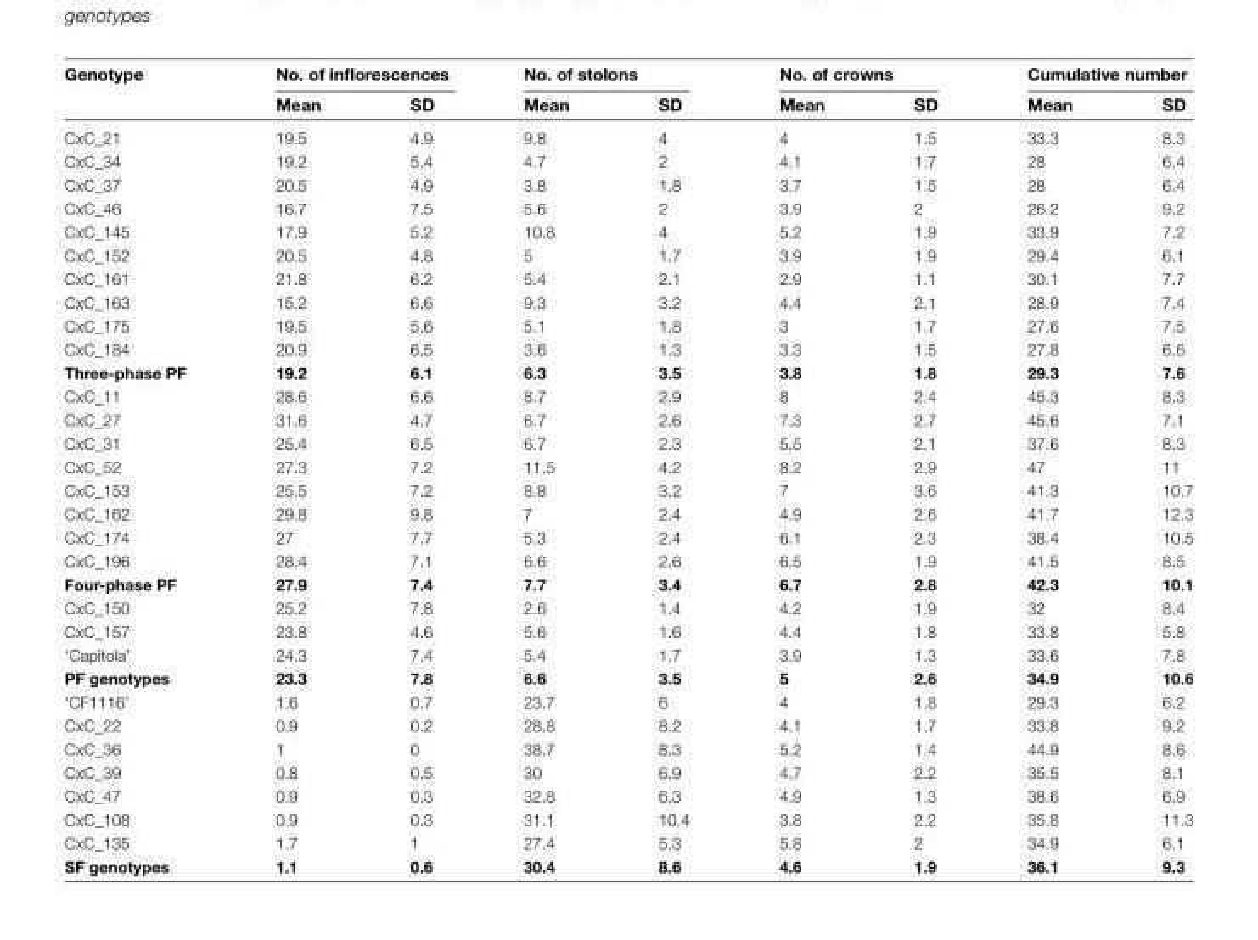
<table><thead><tr><td rowspan="2">Genotype</td><td colspan="2">No. of inflorescences</td><td colspan="2">No. of stolons</td><td colspan="2">No. of crowns</td><td colspan="2">Cumulative number</td></tr><tr><td>Mean</td><td>SD</td><td>Mean</td><td>SD</td><td>Mean</td><td>SD</td><td>Mean</td><td>SD</td></tr></thead><tbody><tr><td>CxC_21</td><td>19.5</td><td>4.9</td><td>9.8</td><td>4</td><td>4</td><td>1.5</td><td>33.3</td><td>8.3</td></tr><tr><td>CxC_34</td><td>19.2</td><td>5.4</td><td>4.7</td><td>2</td><td>4.1</td><td>1.7</td><td>28</td><td>6.4</td></tr><tr><td>CxC_37</td><td>20.5</td><td>4.9</td><td>3.8</td><td>1.8</td><td>3.7</td><td>1.5</td><td>28</td><td>6.4</td></tr><tr><td>CxC_46</td><td>16.7</td><td>7.5</td><td>5.6</td><td>2</td><td>3.9</td><td>2</td><td>26.2</td><td>9.2</td></tr><tr><td>CxC_145</td><td>17.9</td><td>5.2</td><td>10.8</td><td>4</td><td>5.2</td><td>1.9</td><td>33.9</td><td>7.2</td></tr><tr><td>CxC_152</td><td>20.5</td><td>4.8</td><td>5</td><td>1.7</td><td>3.9</td><td>1.9</td><td>29.4</td><td>6.1</td></tr><tr><td>CxC_161</td><td>21.8</td><td>6.2</td><td>5.4</td><td>2.1</td><td>2.9</td><td>1.1</td><td>30.1</td><td>7.7</td></tr><tr><td>CxC_163</td><td>15.2</td><td>6.6</td><td>9.3</td><td>3.2</td><td>4.4</td><td>2.1</td><td>28.9</td><td>7.4</td></tr><tr><td>CxC_175</td><td>19.5</td><td>5.6</td><td>5.1</td><td>1.8</td><td>3</td><td>1.7</td><td>27.6</td><td>7.5</td></tr><tr><td>CxC_184</td><td>20.9</td><td>6.5</td><td>3.6</td><td>1.3</td><td>3.3</td><td>1.5</td><td>27.8</td><td>6.6</td></tr><tr><td>Three-phase PF</td><td>19.2</td><td>6.1</td><td>6.3</td><td>3.5</td><td>3.8</td><td>1.8</td><td>29.3</td><td>7.6</td></tr><tr><td>CxC_11</td><td>28.6</td><td>6.6</td><td>8.7</td><td>2.9</td><td>8</td><td>2.4</td><td>45.3</td><td>8.3</td></tr><tr><td>CxC_27</td><td>31.6</td><td>4.7</td><td>6.7</td><td>2.6</td><td>7.3</td><td>2.7</td><td>45.6</td><td>7.1</td></tr><tr><td>CxC_31</td><td>25.4</td><td>6.5</td><td>6.7</td><td>2.3</td><td>5.5</td><td>2.1</td><td>37.6</td><td>8.3</td></tr><tr><td>CxC_52</td><td>27.3</td><td>7.2</td><td>11.5</td><td>4.2</td><td>8.2</td><td>2.9</td><td>47</td><td>11</td></tr><tr><td>CxC_153</td><td>25.5</td><td>7.2</td><td>8.8</td><td>3.2</td><td>7</td><td>3.6</td><td>41.3</td><td>10.7</td></tr><tr><td>CxC_162</td><td>29.8</td><td>9.8</td><td>7</td><td>2.4</td><td>4.9</td><td>2.6</td><td>41.7</td><td>12.3</td></tr><tr><td>CxC_174</td><td>27</td><td>7.7</td><td>5.3</td><td>2.4</td><td>6.1</td><td>2.3</td><td>38.4</td><td>10.5</td></tr><tr><td>CxC_196</td><td>28.4</td><td>7.1</td><td>6.6</td><td>2.6</td><td>6.5</td><td>1.9</td><td>41.5</td><td>8.5</td></tr><tr><td>Four-phase PF</td><td>27.9</td><td>7.4</td><td>7.7</td><td>3.4</td><td>6.7</td><td>2.8</td><td>42.3</td><td>10.1</td></tr><tr><td>CxC_150</td><td>25.2</td><td>7.8</td><td>2.6</td><td>1.4</td><td>4.2</td><td>1.9</td><td>32</td><td>8.4</td></tr><tr><td>CxC_157</td><td>23.8</td><td>4.6</td><td>5.6</td><td>1.6</td><td>4.4</td><td>1.8</td><td>33.8</td><td>5.8</td></tr><tr><td>‘Capitola’</td><td>24.3</td><td>7.4</td><td>5.4</td><td>1.7</td><td>3.9</td><td>1.3</td><td>33.6</td><td>7.8</td></tr><tr><td>PF genotypes</td><td>23.3</td><td>7.8</td><td>6.6</td><td>3.5</td><td>5</td><td>2.6</td><td>34.9</td><td>10.6</td></tr><tr><td>‘CF1116’</td><td>1.6</td><td>0.7</td><td>23.7</td><td>6</td><td>4</td><td>1.8</td><td>29.3</td><td>6.2</td></tr><tr><td>CxC_22</td><td>0.9</td><td>0.2</td><td>28.8</td><td>8.2</td><td>4.1</td><td>1.7</td><td>33.8</td><td>9.2</td></tr><tr><td>CxC_36</td><td>1</td><td>0</td><td>38.7</td><td>8.3</td><td>5.2</td><td>1.4</td><td>44.9</td><td>8.6</td></tr><tr><td>CxC_39</td><td>0.8</td><td>0.5</td><td>30</td><td>6.9</td><td>4.7</td><td>2.2</td><td>35.5</td><td>8.1</td></tr><tr><td>CxC_47</td><td>0.9</td><td>0.3</td><td>32.8</td><td>6.3</td><td>4.9</td><td>1.3</td><td>38.6</td><td>6.9</td></tr><tr><td>CxC_108</td><td>0.9</td><td>0.3</td><td>31.1</td><td>10.4</td><td>3.8</td><td>2.2</td><td>35.8</td><td>11.3</td></tr><tr><td>CxC_135</td><td>1.7</td><td>1</td><td>27.4</td><td>5.3</td><td>5.8</td><td>2</td><td>34.9</td><td>6.1</td></tr><tr><td>SF genotypes</td><td>1.1</td><td>0.6</td><td>30.4</td><td>8.6</td><td>4.6</td><td>1.9</td><td>36.1</td><td>9.3</td></tr></tbody></table>